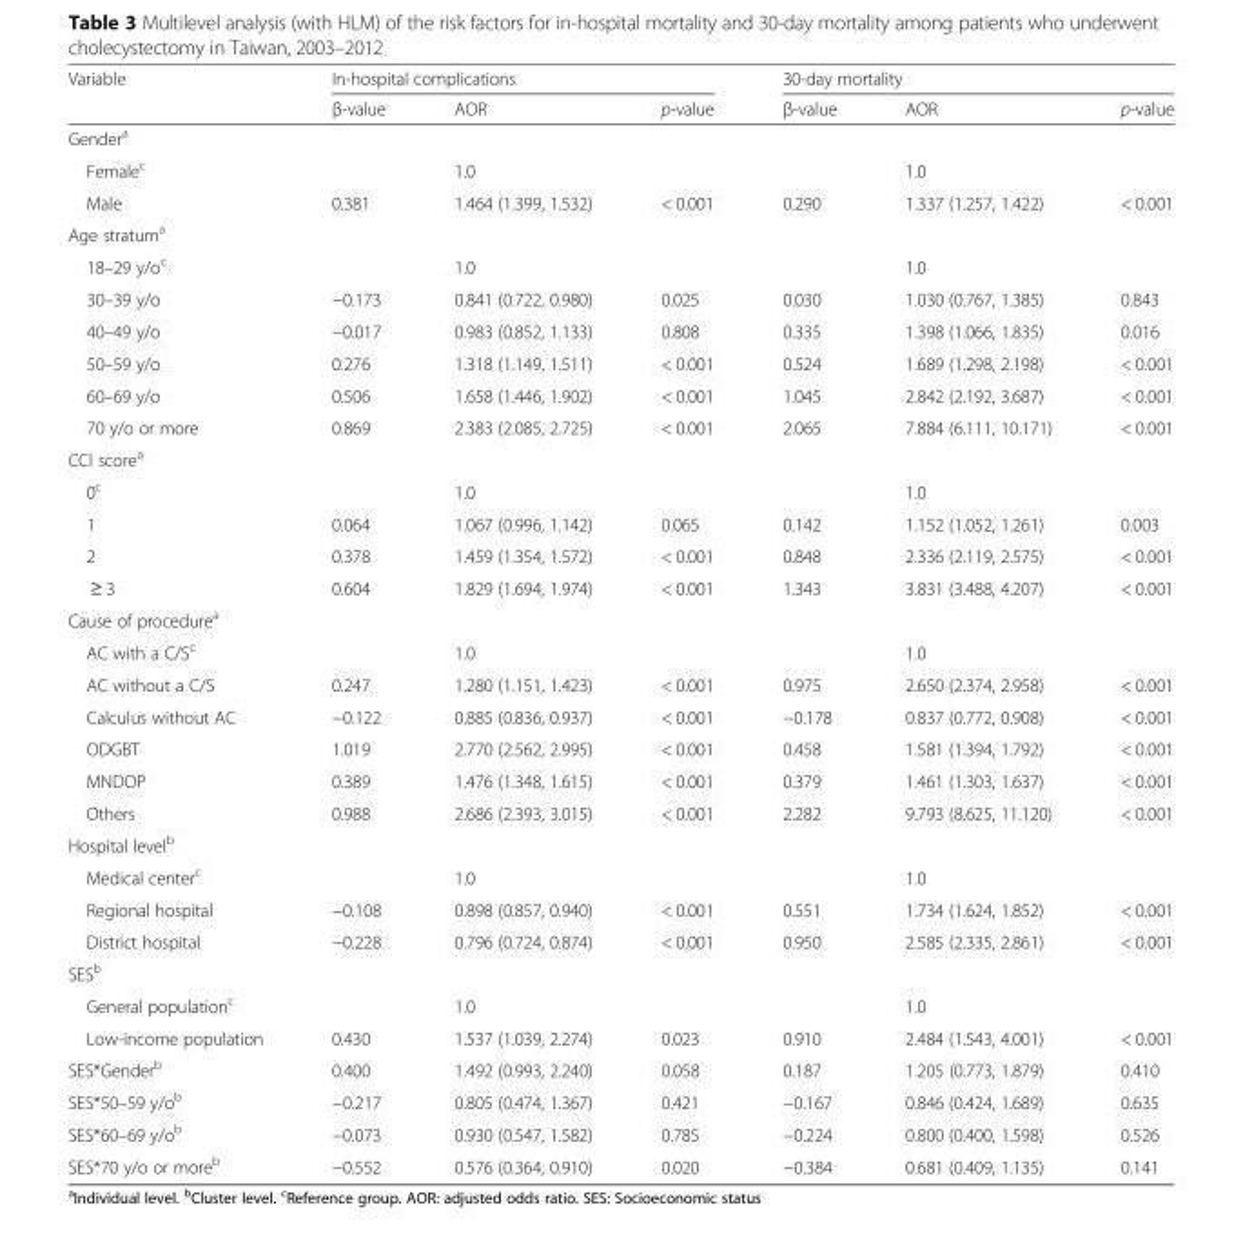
<table><thead><tr><td rowspan="2">Variable</td><td colspan="3">In-hospital complications</td><td colspan="3">30-day mortality</td></tr><tr><td>β-value</td><td>AOR</td><td>p-value</td><td>β-value</td><td>AOR</td><td>p-value</td></tr></thead><tbody><tr><td colspan="7">Gender<sup>a</sup></td></tr><tr><td>Female<sup>c</sup></td><td></td><td>1.0</td><td></td><td></td><td>1.0</td><td></td></tr><tr><td>Male</td><td>0.381</td><td>1.464 (1.399, 1.532)</td><td>&lt; 0.001</td><td>0.290</td><td>1.337 (1.257, 1.422)</td><td>&lt; 0.001</td></tr><tr><td colspan="7">Age stratum<sup>a</sup></td></tr><tr><td>18–29 y/o<sup>c</sup></td><td></td><td>1.0</td><td></td><td></td><td>1.0</td><td></td></tr><tr><td>30–39 y/o</td><td>−0.173</td><td>0.841 (0.722, 0.980)</td><td>0.025</td><td>0.030</td><td>1.030 (0.767, 1.385)</td><td>0.843</td></tr><tr><td>40–49 y/o</td><td>−0.017</td><td>0.983 (0.852, 1.133)</td><td>0.808</td><td>0.335</td><td>1.398 (1.066, 1.835)</td><td>0.016</td></tr><tr><td>50–59 y/o</td><td>0.276</td><td>1.318 (1.149, 1.511)</td><td>&lt; 0.001</td><td>0.524</td><td>1.689 (1.298, 2.198)</td><td>&lt; 0.001</td></tr><tr><td>60–69 y/o</td><td>0.506</td><td>1.658 (1.446, 1.902)</td><td>&lt; 0.001</td><td>1.045</td><td>2.842 (2.192, 3.687)</td><td>&lt; 0.001</td></tr><tr><td>70 y/o or more</td><td>0.869</td><td>2.383 (2.085, 2.725)</td><td>&lt; 0.001</td><td>2.065</td><td>7.884 (6.111, 10.171)</td><td>&lt; 0.001</td></tr><tr><td colspan="7">CCI score<sup>a</sup></td></tr><tr><td>0<sup>c</sup></td><td></td><td>1.0</td><td></td><td></td><td>1.0</td><td></td></tr><tr><td>1</td><td>0.064</td><td>1.067 (0.996, 1.142)</td><td>0.065</td><td>0.142</td><td>1.152 (1.052, 1.261)</td><td>0.003</td></tr><tr><td>2</td><td>0.378</td><td>1.459 (1.354, 1.572)</td><td>&lt; 0.001</td><td>0.848</td><td>2.336 (2.119, 2.575)</td><td>&lt; 0.001</td></tr><tr><td>≥ 3</td><td>0.604</td><td>1.829 (1.694, 1.974)</td><td>&lt; 0.001</td><td>1.343</td><td>3.831 (3.488, 4.207)</td><td>&lt; 0.001</td></tr><tr><td colspan="7">Cause of procedure<sup>a</sup></td></tr><tr><td>AC with a C/S<sup>c</sup></td><td></td><td>1.0</td><td></td><td></td><td>1.0</td><td></td></tr><tr><td>AC without a C/S</td><td>0.247</td><td>1.280 (1.151, 1.423)</td><td>&lt; 0.001</td><td>0.975</td><td>2.650 (2.374, 2.958)</td><td>&lt; 0.001</td></tr><tr><td>Calculus without AC</td><td>−0.122</td><td>0.885 (0.836, 0.937)</td><td>&lt; 0.001</td><td>−0.178</td><td>0.837 (0.772, 0.908)</td><td>&lt; 0.001</td></tr><tr><td>ODGBT</td><td>1.019</td><td>2.770 (2.562, 2.995)</td><td>&lt; 0.001</td><td>0.458</td><td>1.581 (1.394, 1.792)</td><td>&lt; 0.001</td></tr><tr><td>MNDOP</td><td>0.389</td><td>1.476 (1.348, 1.615)</td><td>&lt; 0.001</td><td>0.379</td><td>1.461 (1.303, 1.637)</td><td>&lt; 0.001</td></tr><tr><td>Others</td><td>0.988</td><td>2.686 (2.393, 3.015)</td><td>&lt; 0.001</td><td>2.282</td><td>9.793 (8.625, 11.120)</td><td>&lt; 0.001</td></tr><tr><td colspan="7">Hospital level<sup>b</sup></td></tr><tr><td>Medical center<sup>c</sup></td><td></td><td>1.0</td><td></td><td></td><td>1.0</td><td></td></tr><tr><td>Regional hospital</td><td>−0.108</td><td>0.898 (0.857, 0.940)</td><td>&lt; 0.001</td><td>0.551</td><td>1.734 (1.624, 1.852)</td><td>&lt; 0.001</td></tr><tr><td>District hospital</td><td>−0.228</td><td>0.796 (0.724, 0.874)</td><td>&lt; 0.001</td><td>0.950</td><td>2.585 (2.335, 2.861)</td><td>&lt; 0.001</td></tr><tr><td colspan="7">SES<sup>b</sup></td></tr><tr><td>General population<sup>c</sup></td><td></td><td>1.0</td><td></td><td></td><td>1.0</td><td></td></tr><tr><td>Low-income population</td><td>0.430</td><td>1.537 (1.039, 2.274)</td><td>0.023</td><td>0.910</td><td>2.484 (1.543, 4.001)</td><td>&lt; 0.001</td></tr><tr><td>SES*Gender<sup>b</sup></td><td>0.400</td><td>1.492 (0.993, 2.240)</td><td>0.058</td><td>0.187</td><td>1.205 (0.773, 1.879)</td><td>0.410</td></tr><tr><td>SES*50–59 y/o<sup>b</sup></td><td>−0.217</td><td>0.805 (0.474, 1.367)</td><td>0.421</td><td>−0.167</td><td>0.846 (0.424, 1.689)</td><td>0.635</td></tr><tr><td>SES*60–69 y/o<sup>b</sup></td><td>−0.073</td><td>0.930 (0.547, 1.582)</td><td>0.785</td><td>−0.224</td><td>0.800 (0.400, 1.598)</td><td>0.526</td></tr><tr><td>SES*70 y/o or more<sup>b</sup></td><td>−0.552</td><td>0.576 (0.364, 0.910)</td><td>0.020</td><td>−0.384</td><td>0.681 (0.409, 1.135)</td><td>0.141</td></tr></tbody></table>